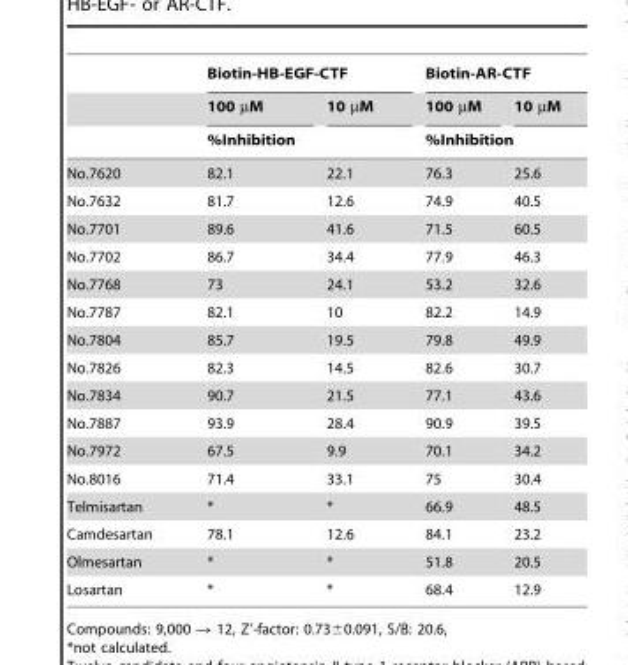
<table><thead><tr><td rowspan="3"></td><td colspan="2">Biotin-HB-EGF-CTF</td><td colspan="2">Biotin-AR-CTF</td></tr><tr><td>100 µM</td><td>10 µM</td><td>100 µM</td><td>10 µM</td></tr><tr><td colspan="2">%Inhibition</td><td colspan="2">%Inhibition</td></tr></thead><tbody><tr><td>No.7620</td><td>82.1</td><td>22.1</td><td>76.3</td><td>25.6</td></tr><tr><td>No.7632</td><td>81.7</td><td>12.6</td><td>74.9</td><td>40.5</td></tr><tr><td>No.7701</td><td>89.6</td><td>41.6</td><td>71.5</td><td>60.5</td></tr><tr><td>No.7702</td><td>86.7</td><td>34.4</td><td>77.9</td><td>46.3</td></tr><tr><td>No.7768</td><td>73</td><td>24.1</td><td>53.2</td><td>32.6</td></tr><tr><td>No.7787</td><td>82.1</td><td>10</td><td>82.2</td><td>14.9</td></tr><tr><td>No.7804</td><td>85.7</td><td>19.5</td><td>79.8</td><td>49.9</td></tr><tr><td>No.7826</td><td>82.3</td><td>14.5</td><td>82.6</td><td>30.7</td></tr><tr><td>No.7834</td><td>90.7</td><td>21.5</td><td>77.1</td><td>43.6</td></tr><tr><td>No.7887</td><td>93.9</td><td>28.4</td><td>90.9</td><td>39.5</td></tr><tr><td>No.7972</td><td>67.5</td><td>9.9</td><td>70.1</td><td>34.2</td></tr><tr><td>No.8016</td><td>71.4</td><td>33.1</td><td>75</td><td>30.4</td></tr><tr><td>Telmisartan</td><td>*</td><td>*</td><td>66.9</td><td>48.5</td></tr><tr><td>Camdesartan</td><td>78.1</td><td>12.6</td><td>84.1</td><td>23.2</td></tr><tr><td>Olmesartan</td><td>*</td><td>*</td><td>51.8</td><td>20.5</td></tr><tr><td>Losartan</td><td>*</td><td>*</td><td>68.4</td><td>12.9</td></tr></tbody></table>